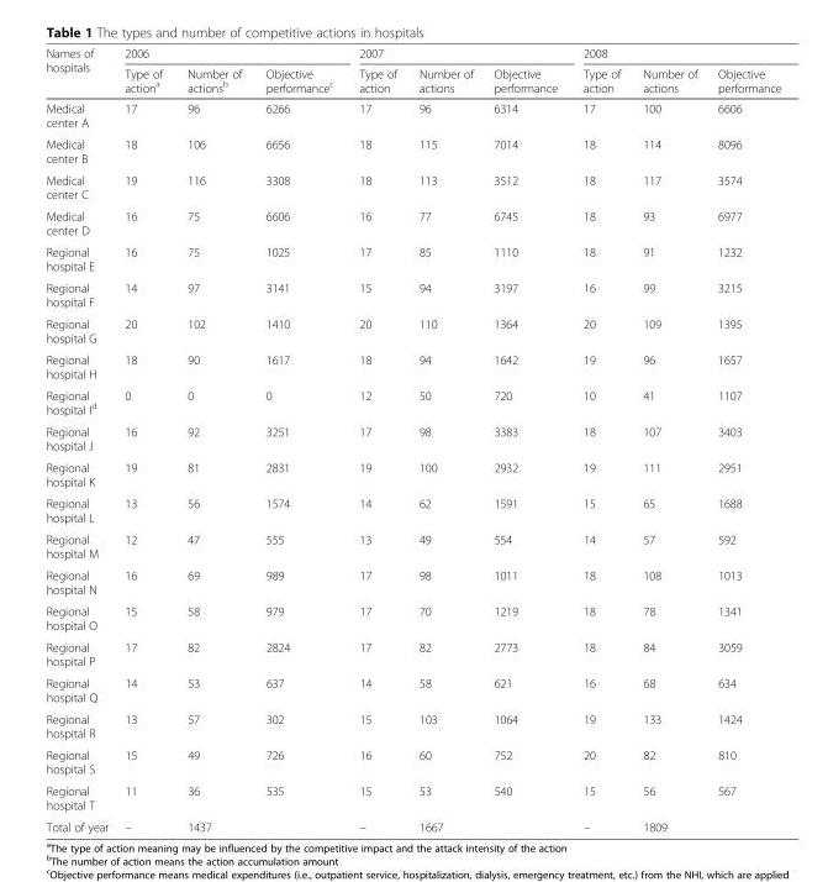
<table><thead><tr><td rowspan="2">Names of hospitals</td><td colspan="3">2006</td><td colspan="3">2007</td><td colspan="3">2008</td></tr><tr><td>Type of action<sup>a</sup></td><td>Number of actions<sup>b</sup></td><td>Objective performance<sup>c</sup></td><td>Type of action</td><td>Number of actions</td><td>Objective performance</td><td>Type of action</td><td>Number of actions</td><td>Objective performance</td></tr></thead><tbody><tr><td>Medical center A</td><td>17</td><td>96</td><td>6266</td><td>17</td><td>96</td><td>6314</td><td>17</td><td>100</td><td>6606</td></tr><tr><td>Medical center B</td><td>18</td><td>106</td><td>6656</td><td>18</td><td>115</td><td>7014</td><td>18</td><td>114</td><td>8096</td></tr><tr><td>Medical center C</td><td>19</td><td>116</td><td>3308</td><td>18</td><td>113</td><td>3512</td><td>18</td><td>117</td><td>3574</td></tr><tr><td>Medical center D</td><td>16</td><td>75</td><td>6606</td><td>16</td><td>77</td><td>6745</td><td>18</td><td>93</td><td>6977</td></tr><tr><td>Regional hospital E</td><td>16</td><td>75</td><td>1025</td><td>17</td><td>85</td><td>1110</td><td>18</td><td>91</td><td>1232</td></tr><tr><td>Regional hospital F</td><td>14</td><td>97</td><td>3141</td><td>15</td><td>94</td><td>3197</td><td>16</td><td>99</td><td>3215</td></tr><tr><td>Regional hospital G</td><td>20</td><td>102</td><td>1410</td><td>20</td><td>110</td><td>1364</td><td>20</td><td>109</td><td>1395</td></tr><tr><td>Regional hospital H</td><td>18</td><td>90</td><td>1617</td><td>18</td><td>94</td><td>1642</td><td>19</td><td>96</td><td>1657</td></tr><tr><td>Regional hospital I<sup>d</sup></td><td>0</td><td>0</td><td>0</td><td>12</td><td>50</td><td>720</td><td>10</td><td>41</td><td>1107</td></tr><tr><td>Regional hospital J</td><td>16</td><td>92</td><td>3251</td><td>17</td><td>98</td><td>3383</td><td>18</td><td>107</td><td>3403</td></tr><tr><td>Regional hospital K</td><td>19</td><td>81</td><td>2831</td><td>19</td><td>100</td><td>2932</td><td>19</td><td>111</td><td>2951</td></tr><tr><td>Regional hospital L</td><td>13</td><td>56</td><td>1574</td><td>14</td><td>62</td><td>1591</td><td>15</td><td>65</td><td>1688</td></tr><tr><td>Regional hospital M</td><td>12</td><td>47</td><td>555</td><td>13</td><td>49</td><td>554</td><td>14</td><td>57</td><td>592</td></tr><tr><td>Regional hospital N</td><td>16</td><td>69</td><td>989</td><td>17</td><td>98</td><td>1011</td><td>18</td><td>108</td><td>1013</td></tr><tr><td>Regional hospital O</td><td>15</td><td>58</td><td>979</td><td>17</td><td>70</td><td>1219</td><td>18</td><td>78</td><td>1341</td></tr><tr><td>Regional hospital P</td><td>17</td><td>82</td><td>2824</td><td>17</td><td>82</td><td>2773</td><td>18</td><td>84</td><td>3059</td></tr><tr><td>Regional hospital Q</td><td>14</td><td>53</td><td>637</td><td>14</td><td>58</td><td>621</td><td>16</td><td>68</td><td>634</td></tr><tr><td>Regional hospital R</td><td>13</td><td>57</td><td>302</td><td>15</td><td>103</td><td>1064</td><td>19</td><td>133</td><td>1424</td></tr><tr><td>Regional hospital S</td><td>15</td><td>49</td><td>726</td><td>16</td><td>60</td><td>752</td><td>20</td><td>82</td><td>810</td></tr><tr><td>Regional hospital T</td><td>11</td><td>36</td><td>535</td><td>15</td><td>53</td><td>540</td><td>15</td><td>56</td><td>567</td></tr><tr><td>Total of year</td><td>–</td><td>1437</td><td></td><td>–</td><td>1667</td><td></td><td>–</td><td>1809</td><td></td></tr></tbody></table>